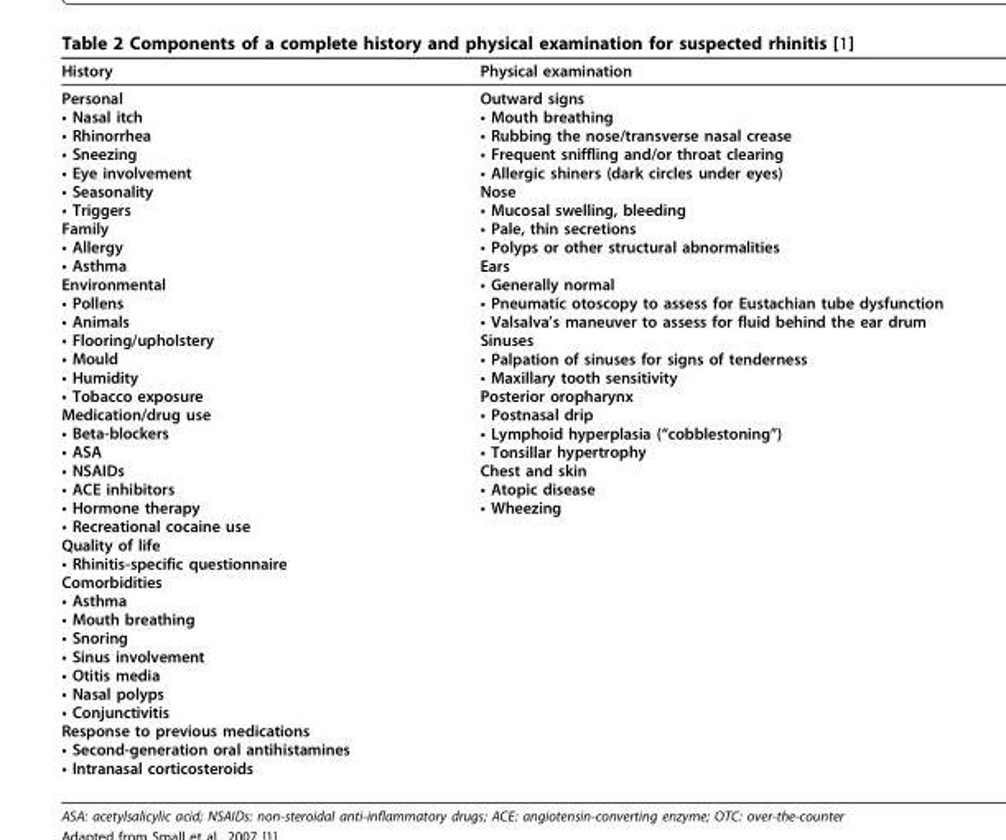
<table><thead><tr><td>History</td><td>Physical examination</td></tr></thead><tbody><tr><td>Personal • Nasal itch • Rhinorrhea • Sneezing • Eye involvement • Seasonality • Triggers Family • Allergy • Asthma Environmental • Pollens • Animals • Flooring/upholstery • Mould • Humidity • Tobacco exposure Medication/drug use • Beta-blockers • ASA • NSAIDs • ACE inhibitors • Hormone therapy • Recreational cocaine use Quality of life • Rhinitis-specific questionnaire Comorbidities • Asthma • Mouth breathing • Snoring • Sinus involvement • Otitis media • Nasal polyps • Conjunctivitis Response to previous medications • Second-generation oral antihistamines • Intranasal corticosteroids</td><td>Outward signs • Mouth breathing • Rubbing the nose/transverse nasal crease • Frequent sniffling and/or throat clearing • Allergic shiners (dark circles under eyes) Nose • Mucosal swelling, bleeding • Pale, thin secretions • Polyps or other structural abnormalities Ears • Generally normal • Pneumatic otoscopy to assess for Eustachian tube dysfunction • Valsalva’s maneuver to assess for fluid behind the ear drum Sinuses • Palpation of sinuses for signs of tenderness • Maxillary tooth sensitivity Posterior oropharynx • Postnasal drip • Lymphoid hyperplasia (“cobblestoning”) • Tonsillar hypertrophy Chest and skin • Atopic disease • Wheezing</td></tr></tbody></table>